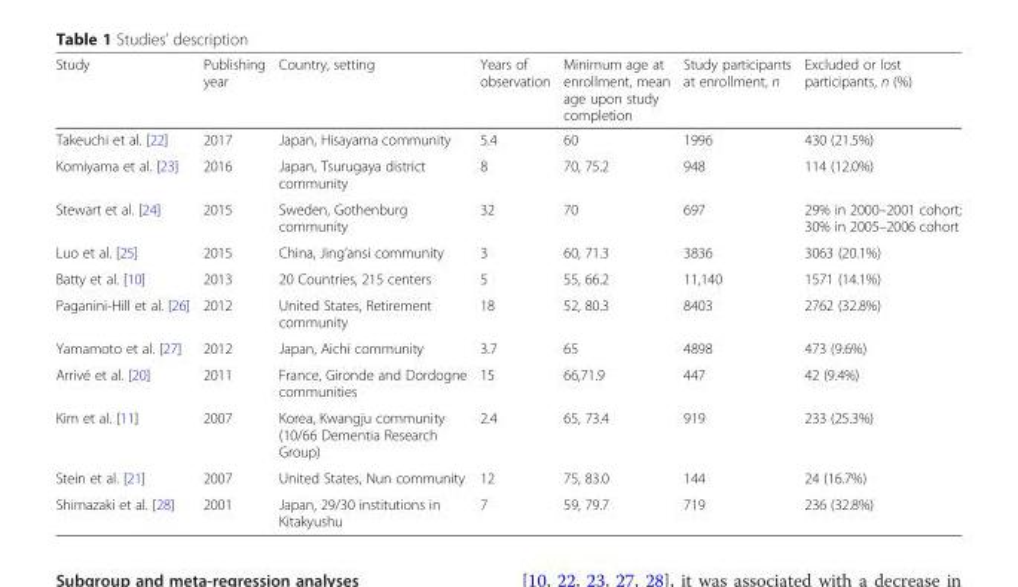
<table><thead><tr><td>Study</td><td>Publishing year</td><td>Country, setting</td><td>Years of observation</td><td>Minimum age at enrollment, mean age upon study completion</td><td>Study participants at enrollment, n</td><td>Excluded or lost participants, n (%)</td></tr></thead><tbody><tr><td>Takeuchi et al. [22]</td><td>2017</td><td>Japan, Hisayama community</td><td>5.4</td><td>60</td><td>1996</td><td>430 (21.5%)</td></tr><tr><td>Komiyama et al. [23]</td><td>2016</td><td>Japan, Tsurugaya district community</td><td>8</td><td>70, 75.2</td><td>948</td><td>114 (12.0%)</td></tr><tr><td>Stewart et al. [24]</td><td>2015</td><td>Sweden, Gothenburg community</td><td>32</td><td>70</td><td>697</td><td>29% in 2000–2001 cohort; 30% in 2005–2006 cohort</td></tr><tr><td>Luo et al. [25]</td><td>2015</td><td>China, Jing’ansi community</td><td>3</td><td>60, 71.3</td><td>3836</td><td>3063 (20.1%)</td></tr><tr><td>Batty et al. [10]</td><td>2013</td><td>20 Countries, 215 centers</td><td>5</td><td>55, 66.2</td><td>11,140</td><td>1571 (14.1%)</td></tr><tr><td>Paganini-Hill et al. [26]</td><td>2012</td><td>United States, Retirement community</td><td>18</td><td>52, 80.3</td><td>8403</td><td>2762 (32.8%)</td></tr><tr><td>Yamamoto et al. [27]</td><td>2012</td><td>Japan, Aichi community</td><td>3.7</td><td>65</td><td>4898</td><td>473 (9.6%)</td></tr><tr><td>Arrivé et al. [20]</td><td>2011</td><td>France, Gironde and Dordogne communities</td><td>15</td><td>66,71.9</td><td>447</td><td>42 (9.4%)</td></tr><tr><td>Kim et al. [11]</td><td>2007</td><td>Korea, Kwangju community (10/66 Dementia Research Group)</td><td>2.4</td><td>65, 73.4</td><td>919</td><td>233 (25.3%)</td></tr><tr><td>Stein et al. [21]</td><td>2007</td><td>United States, Nun community</td><td>12</td><td>75, 83.0</td><td>144</td><td>24 (16.7%)</td></tr><tr><td>Shimazaki et al. [28]</td><td>2001</td><td>Japan, 29/30 institutions in Kitakyushu</td><td>7</td><td>59, 79.7</td><td>719</td><td>236 (32.8%)</td></tr></tbody></table>